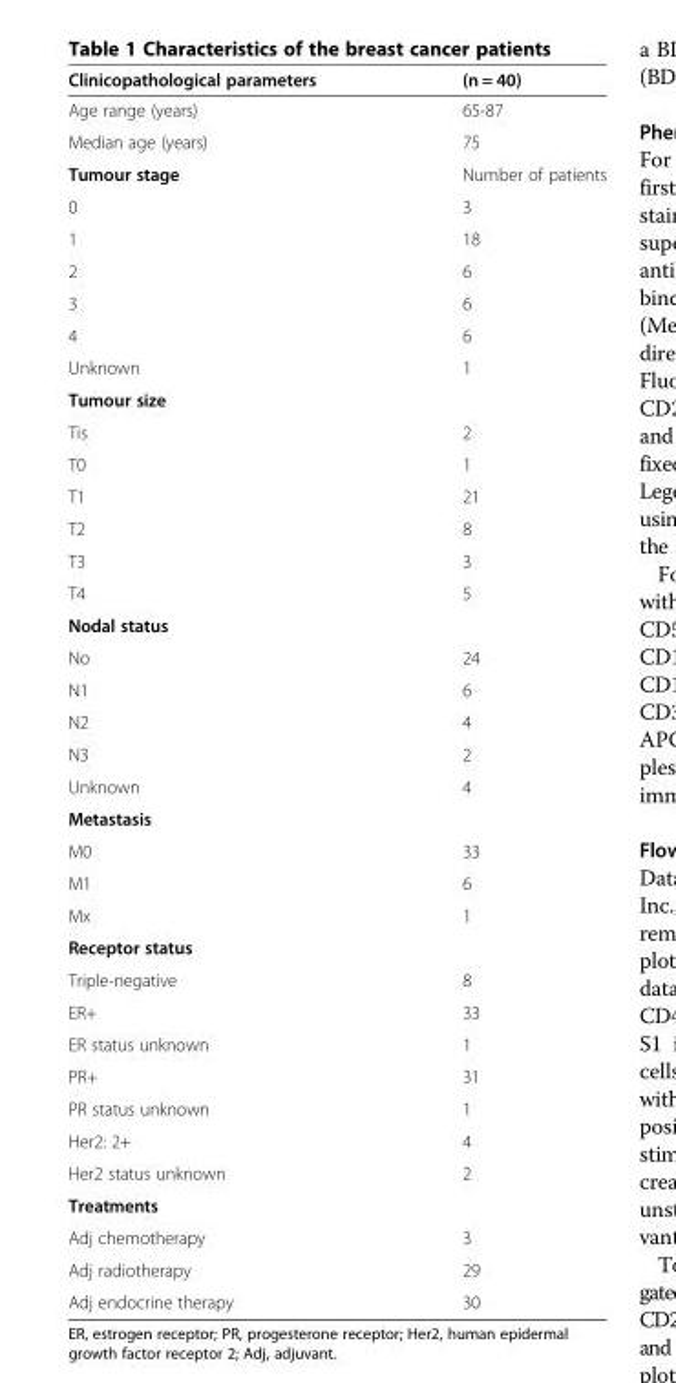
<table><thead><tr><td>Clinicopathological parameters</td><td>(n = 40)</td></tr></thead><tbody><tr><td>Age range (years)</td><td>65-87</td></tr><tr><td>Median age (years)</td><td>75</td></tr><tr><td>Tumour stage</td><td>Number of patients</td></tr><tr><td>0</td><td>3</td></tr><tr><td>1</td><td>18</td></tr><tr><td>2</td><td>6</td></tr><tr><td>3</td><td>6</td></tr><tr><td>4</td><td>6</td></tr><tr><td>Unknown</td><td>1</td></tr><tr><td colspan="2">Tumour size</td></tr><tr><td>Tis</td><td>2</td></tr><tr><td>T0</td><td>1</td></tr><tr><td>T1</td><td>21</td></tr><tr><td>T2</td><td>8</td></tr><tr><td>T3</td><td>3</td></tr><tr><td>T4</td><td>5</td></tr><tr><td colspan="2">Nodal status</td></tr><tr><td>No</td><td>24</td></tr><tr><td>N1</td><td>6</td></tr><tr><td>N2</td><td>4</td></tr><tr><td>N3</td><td>2</td></tr><tr><td>Unknown</td><td>4</td></tr><tr><td colspan="2">Metastasis</td></tr><tr><td>M0</td><td>33</td></tr><tr><td>M1</td><td>6</td></tr><tr><td>Mx</td><td>1</td></tr><tr><td colspan="2">Receptor status</td></tr><tr><td>Triple-negative</td><td>8</td></tr><tr><td>ER+</td><td>33</td></tr><tr><td>ER status unknown</td><td>1</td></tr><tr><td>PR+</td><td>31</td></tr><tr><td>PR status unknown</td><td>1</td></tr><tr><td>Her2: 2+</td><td>4</td></tr><tr><td>Her2 status unknown</td><td>2</td></tr><tr><td colspan="2">Treatments</td></tr><tr><td>Adj chemotherapy</td><td>3</td></tr><tr><td>Adj radiotherapy</td><td>29</td></tr><tr><td>Adj endocrine therapy</td><td>30</td></tr></tbody></table>